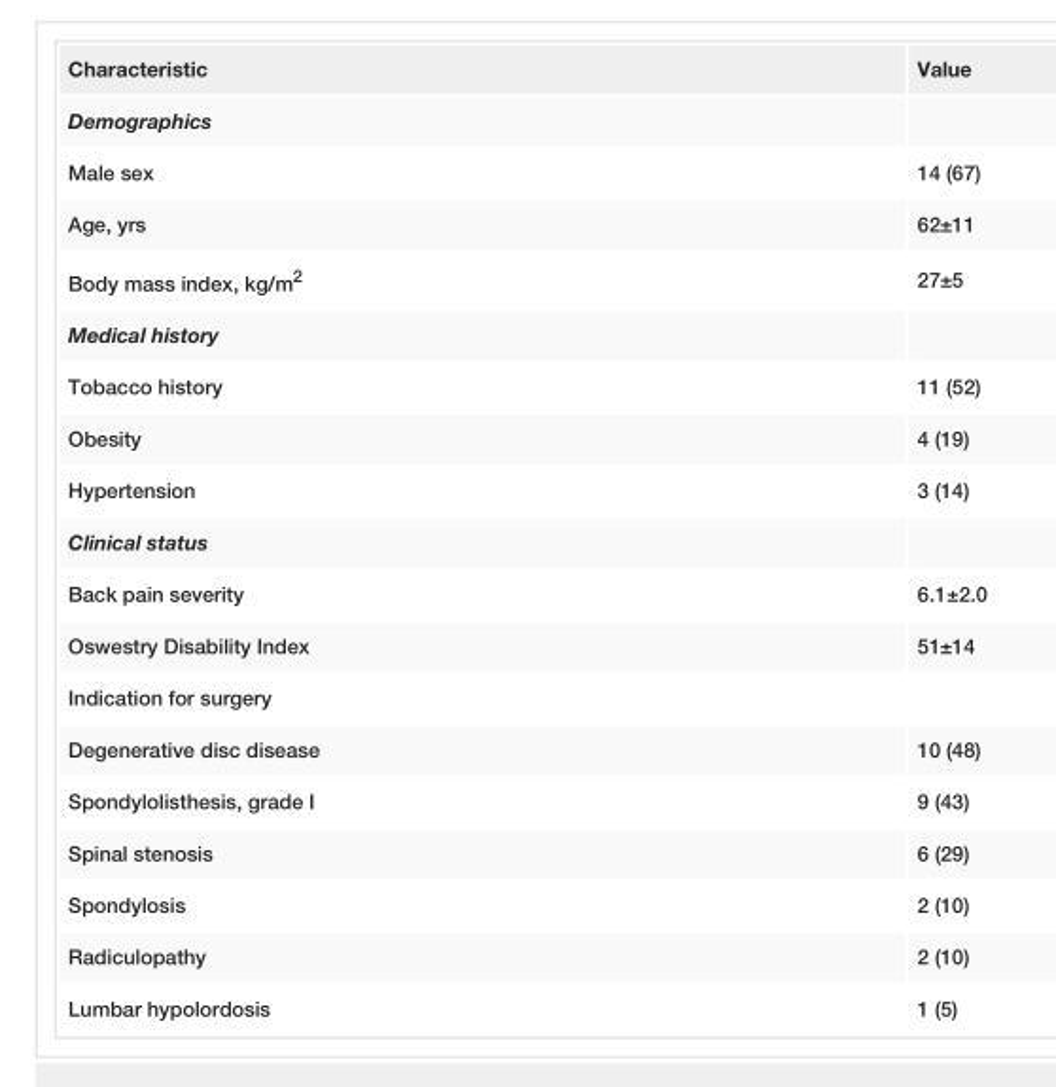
<table><tbody><tr><td>Characteristic</td><td>Value</td></tr><tr><td colspan="2">Demographics</td></tr><tr><td>Male sex</td><td>14 (67)</td></tr><tr><td>Age, yrs</td><td>62±11</td></tr><tr><td>Body mass index, kg/m<sup>2</sup></td><td>27±5</td></tr><tr><td colspan="2">Medical history</td></tr><tr><td>Tobacco history</td><td>11 (52)</td></tr><tr><td>Obesity</td><td>4 (19)</td></tr><tr><td>Hypertension</td><td>3 (14)</td></tr><tr><td colspan="2">Clinical status</td></tr><tr><td>Back pain severity</td><td>6.1±2.0</td></tr><tr><td>Oswestry Disability Index</td><td>51±14</td></tr><tr><td colspan="2">Indication for surgery</td></tr><tr><td>Degenerative disc disease</td><td>10 (48)</td></tr><tr><td>Spondylolisthesis, grade I</td><td>9 (43)</td></tr><tr><td>Spinal stenosis</td><td>6 (29)</td></tr><tr><td>Spondylosis</td><td>2 (10)</td></tr><tr><td>Radiculopathy</td><td>2 (10)</td></tr><tr><td>Lumbar hypolordosis</td><td>1 (5)</td></tr></tbody></table>